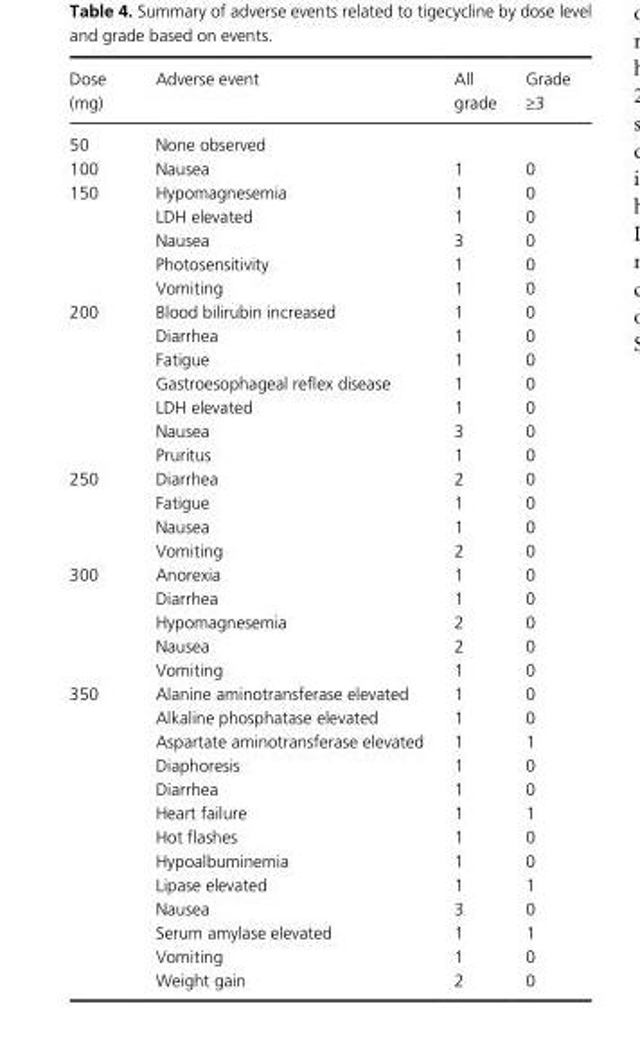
<table><thead><tr><td>Dose (mg)</td><td>Adverse event</td><td>All grade</td><td>Grade ≥3</td></tr></thead><tbody><tr><td>50</td><td>None observed</td><td></td><td></td></tr><tr><td>100</td><td>Nausea</td><td>1</td><td>0</td></tr><tr><td rowspan="5">150</td><td>Hypomagnesemia</td><td>1</td><td>0</td></tr><tr><td>LDH elevated</td><td>1</td><td>0</td></tr><tr><td>Nausea</td><td>3</td><td>0</td></tr><tr><td>Photosensitivity</td><td>1</td><td>0</td></tr><tr><td>Vomiting</td><td>1</td><td>0</td></tr><tr><td rowspan="7">200</td><td>Blood bilirubin increased</td><td>1</td><td>0</td></tr><tr><td>Diarrhea</td><td>1</td><td>0</td></tr><tr><td>Fatigue</td><td>1</td><td>0</td></tr><tr><td>Gastroesophageal reflex disease</td><td>1</td><td>0</td></tr><tr><td>LDH elevated</td><td>1</td><td>0</td></tr><tr><td>Nausea</td><td>3</td><td>0</td></tr><tr><td>Pruritus</td><td>1</td><td>0</td></tr><tr><td rowspan="4">250</td><td>Diarrhea</td><td>2</td><td>0</td></tr><tr><td>Fatigue</td><td>1</td><td>0</td></tr><tr><td>Nausea</td><td>1</td><td>0</td></tr><tr><td>Vomiting</td><td>2</td><td>0</td></tr><tr><td rowspan="5">300</td><td>Anorexia</td><td>1</td><td>0</td></tr><tr><td>Diarrhea</td><td>1</td><td>0</td></tr><tr><td>Hypomagnesemia</td><td>2</td><td>0</td></tr><tr><td>Nausea</td><td>2</td><td>0</td></tr><tr><td>Vomiting</td><td>1</td><td>0</td></tr><tr><td rowspan="13">350</td><td>Alanine aminotransferase elevated</td><td>1</td><td>0</td></tr><tr><td>Alkaline phosphatase elevated</td><td>1</td><td>0</td></tr><tr><td>Aspartate aminotransferase elevated</td><td>1</td><td>1</td></tr><tr><td>Diaphoresis</td><td>1</td><td>0</td></tr><tr><td>Diarrhea</td><td>1</td><td>0</td></tr><tr><td>Heart failure</td><td>1</td><td>1</td></tr><tr><td>Hot flashes</td><td>1</td><td>0</td></tr><tr><td>Hypoalbuminemia</td><td>1</td><td>0</td></tr><tr><td>Lipase elevated</td><td>1</td><td>1</td></tr><tr><td>Nausea</td><td>3</td><td>0</td></tr><tr><td>Serum amylase elevated</td><td>1</td><td>1</td></tr><tr><td>Vomiting</td><td>1</td><td>0</td></tr><tr><td>Weight gain</td><td>2</td><td>0</td></tr></tbody></table>